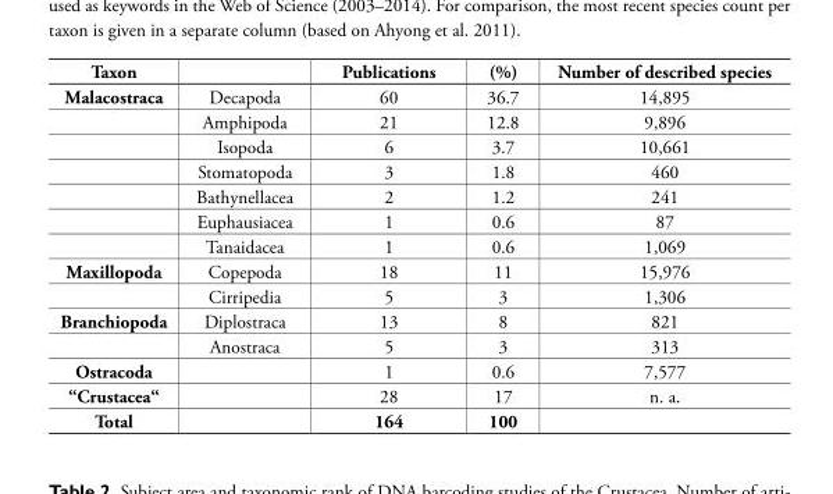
<table><thead><tr><td>Taxon</td><td></td><td>Publications</td><td>(%)</td><td>Number of described species</td></tr></thead><tbody><tr><td rowspan="7">Malacostraca</td><td>Decapoda</td><td>60</td><td>36.7</td><td>14,895</td></tr><tr><td>Amphipoda</td><td>21</td><td>12.8</td><td>9,896</td></tr><tr><td>Isopoda</td><td>6</td><td>3.7</td><td>10,661</td></tr><tr><td>Stomatopoda</td><td>3</td><td>1.8</td><td>460</td></tr><tr><td>Bathynellacea</td><td>2</td><td>1.2</td><td>241</td></tr><tr><td>Euphausiacea</td><td>1</td><td>0.6</td><td>87</td></tr><tr><td>Tanaidacea</td><td>1</td><td>0.6</td><td>1,069</td></tr><tr><td rowspan="2">Maxillopoda</td><td>Copepoda</td><td>18</td><td>11</td><td>15,976</td></tr><tr><td>Cirripedia</td><td>5</td><td>3</td><td>1,306</td></tr><tr><td rowspan="2">Branchiopoda</td><td>Diplostraca</td><td>13</td><td>8</td><td>821</td></tr><tr><td>Anostraca</td><td>5</td><td>3</td><td>313</td></tr><tr><td>Ostracoda</td><td></td><td>1</td><td>0.6</td><td>7,577</td></tr><tr><td>“Crustacea“</td><td></td><td>28</td><td>17</td><td>n. a.</td></tr><tr><td>Total</td><td></td><td>164</td><td>100</td><td></td></tr></tbody></table>